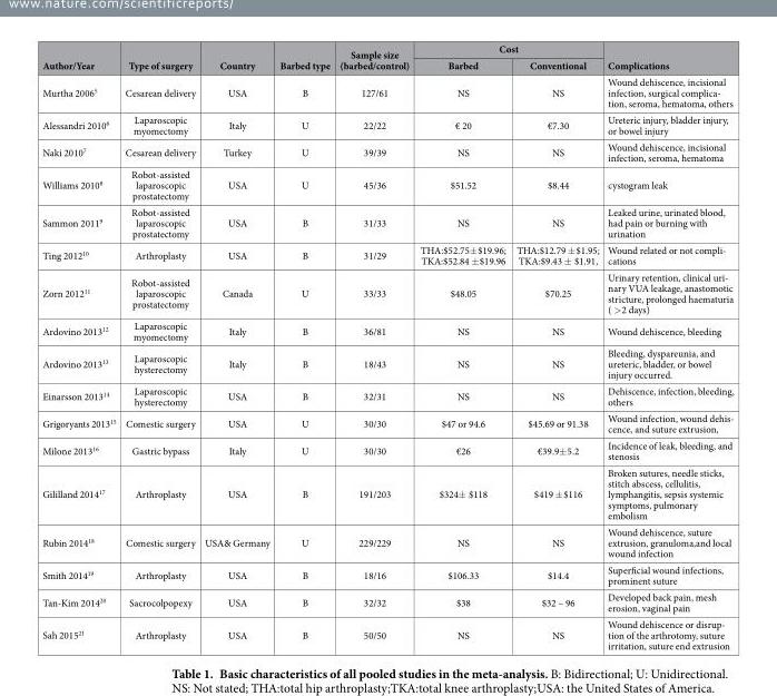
<table><thead><tr><td rowspan="2">Author/Year</td><td rowspan="2">Type of surgery</td><td rowspan="2">Country</td><td rowspan="2">Barbed type</td><td rowspan="2">Sample size (barbed/control)</td><td colspan="2">Cost</td><td rowspan="2">Complications</td></tr><tr><td>Barbed</td><td>Conventional</td></tr></thead><tbody><tr><td>Murtha 2006<sup>5</sup></td><td>Cesarean delivery</td><td>USA</td><td>B</td><td>127/61</td><td>NS</td><td>NS</td><td>Wound dehiscence, incisional infection, surgical complica- tion, seroma, hematoma, others</td></tr><tr><td>Alessandri 2010<sup>6</sup></td><td>Laparoscopic myomectomy</td><td>Italy</td><td>U</td><td>22/22</td><td>€ 20</td><td>€7.30</td><td>Ureteric injury, bladder injury, or bowel injury</td></tr><tr><td>Naki 2010<sup>7</sup></td><td>Cesarean delivery</td><td>Turkey</td><td>U</td><td>39/39</td><td>NS</td><td>NS</td><td>Wound dehiscence, incisional infection, seroma, hematoma</td></tr><tr><td>Williams 2010<sup>8</sup></td><td>Robot-assisted laparoscopic prostatectomy</td><td>USA</td><td>U</td><td>45/36</td><td>$51.52</td><td>$8.44</td><td>cystogram leak</td></tr><tr><td>Sammon 2011<sup>9</sup></td><td>Robot-assisted laparoscopic prostatectomy</td><td>USA</td><td>B</td><td>31/33</td><td>NS</td><td>NS</td><td>Leaked urine, urinated blood, had pain or burning with urination</td></tr><tr><td>Ting 2012<sup>10</sup></td><td>Arthroplasty</td><td>USA</td><td>B</td><td>31/29</td><td>THA:$52.75± $19.96; TKA:$52.84 ± $19.96</td><td>THA:$12.79 ± $1.95; TKA:$9.43 ± $1.91,</td><td>Wound related or not compli- cations</td></tr><tr><td>Zorn 2012<sup>11</sup></td><td>Robot-assisted laparoscopic prostatectomy</td><td>Canada</td><td>U</td><td>33/33</td><td>$48.05</td><td>$70.25</td><td>Urinary retention, clinical uri- nary VUA leakage, anastomotic stricture, prolonged haematuria ( &gt; 2 days)</td></tr><tr><td>Ardovino 2013<sup>12</sup></td><td>Laparoscopic myomectomy</td><td>Italy</td><td>B</td><td>36/81</td><td>NS</td><td>NS</td><td>Wound dehiscence, bleeding</td></tr><tr><td>Ardovino 2013<sup>13</sup></td><td>Laparoscopic hysterectomy</td><td>Italy</td><td>B</td><td>18/43</td><td>NS</td><td>NS</td><td>Bleeding, dyspareunia, and ureteric, bladder, or bowel injury occurred.</td></tr><tr><td>Einarsson 2013<sup>14</sup></td><td>Laparoscopic hysterectomy</td><td>USA</td><td>B</td><td>32/31</td><td>NS</td><td>NS</td><td>Dehiscence, infection, bleeding, others</td></tr><tr><td>Grigoryants 2013<sup>15</sup></td><td>Comestic surgery</td><td>USA</td><td>U</td><td>30/30</td><td>$47 or 94.6</td><td>$45.69 or 91.38</td><td>Wound infection, wound dehis- cence, and suture extrusion,</td></tr><tr><td>Milone 2013<sup>16</sup></td><td>Gastric bypass</td><td>Italy</td><td>U</td><td>30/30</td><td>€26</td><td>€39.9± 5.2</td><td>Incidence of leak, bleeding, and stenosis</td></tr><tr><td>Gililland 2014<sup>17</sup></td><td>Arthroplasty</td><td>USA</td><td>B</td><td>191/203</td><td>$324± $118</td><td>$419 ± $116</td><td>Broken sutures, needle sticks, stitch abscess, cellulitis, lymphangitis, sepsis systemic symptoms, pulmonary embolism</td></tr><tr><td>Rubin 2014<sup>18</sup></td><td>Comestic surgery</td><td>USA&amp; Germany</td><td>U</td><td>229/229</td><td>NS</td><td>NS</td><td>Wound dehiscence, suture extrusion, granuloma,and local wound infection</td></tr><tr><td>Smith 2014<sup>19</sup></td><td>Arthroplasty</td><td>USA</td><td>B</td><td>18/16</td><td>$106.33</td><td>$14.4</td><td>Superficial wound infections, prominent suture</td></tr><tr><td>Tan-Kim 2014<sup>20</sup></td><td>Sacrocolpopexy</td><td>USA</td><td>B</td><td>32/32</td><td>$38</td><td>$32 – 96</td><td>Developed back pain, mesh erosion, vaginal pain</td></tr><tr><td>Sah 2015<sup>21</sup></td><td>Arthroplasty</td><td>USA</td><td>B</td><td>50/50</td><td>NS</td><td>NS</td><td>Wound dehiscence or disrup- tion of the arthrotomy, suture irritation, suture end extrusion</td></tr></tbody></table>